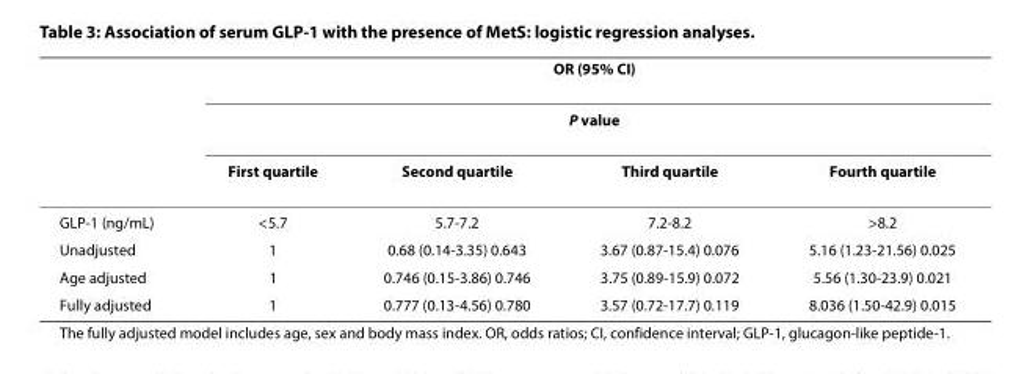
<table><thead><tr><td rowspan="3"></td><td rowspan="2" colspan="4">OR (95% CI) P value</td></tr><tr></tr><tr><td>First quartile</td><td>Second quartile</td><td>Third quartile</td><td>Fourth quartile</td></tr></thead><tbody><tr><td>GLP-1 (ng/mL)</td><td>&lt;5.7</td><td>5.7-7.2</td><td>7.2-8.2</td><td>&gt;8.2</td></tr><tr><td>Unadjusted</td><td>1</td><td>0.68 (0.14-3.35) 0.643</td><td>3.67 (0.87-15.4) 0.076</td><td>5.16 (1.23-21.56) 0.025</td></tr><tr><td>Age adjusted</td><td>1</td><td>0.746 (0.15-3.86) 0.746</td><td>3.75 (0.89-15.9) 0.072</td><td>5.56 (1.30-23.9) 0.021</td></tr><tr><td>Fully adjusted</td><td>1</td><td>0.777 (0.13-4.56) 0.780</td><td>3.57 (0.72-17.7) 0.119</td><td>8.036 (1.50-42.9) 0.015</td></tr></tbody></table>